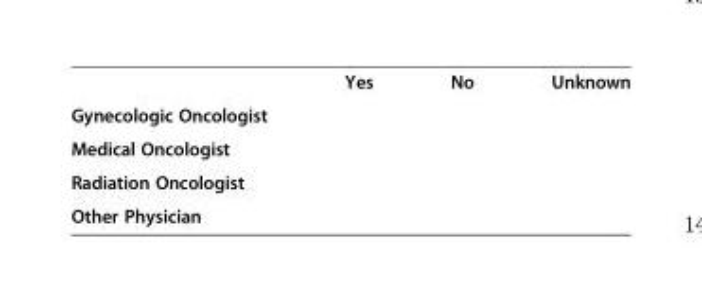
<table><thead><tr><td></td><td>Yes</td><td>No</td><td>Unknown</td></tr></thead><tbody><tr><td colspan="4">Gynecologic Oncologist</td></tr><tr><td colspan="4">Medical Oncologist</td></tr><tr><td colspan="4">Radiation Oncologist</td></tr><tr><td>Other Physician</td><td></td><td></td><td></td></tr></tbody></table>